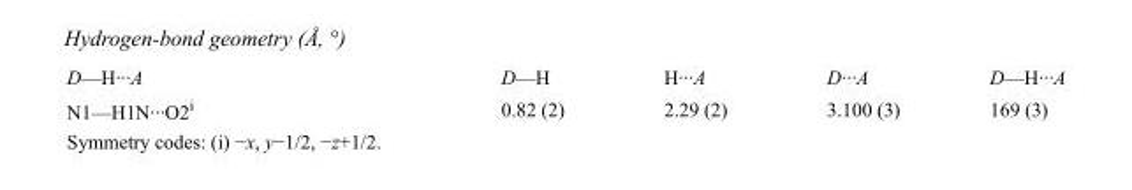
<table><tbody><tr><td>D—H···A</td><td>D—H</td><td>H···A</td><td>D···A</td><td>D—H···A</td></tr><tr><td>N1—H1N···O2<sup>i</sup></td><td>0.82 (2)</td><td>2.29 (2)</td><td>3.100 (3)</td><td>169 (3)</td></tr></tbody></table>